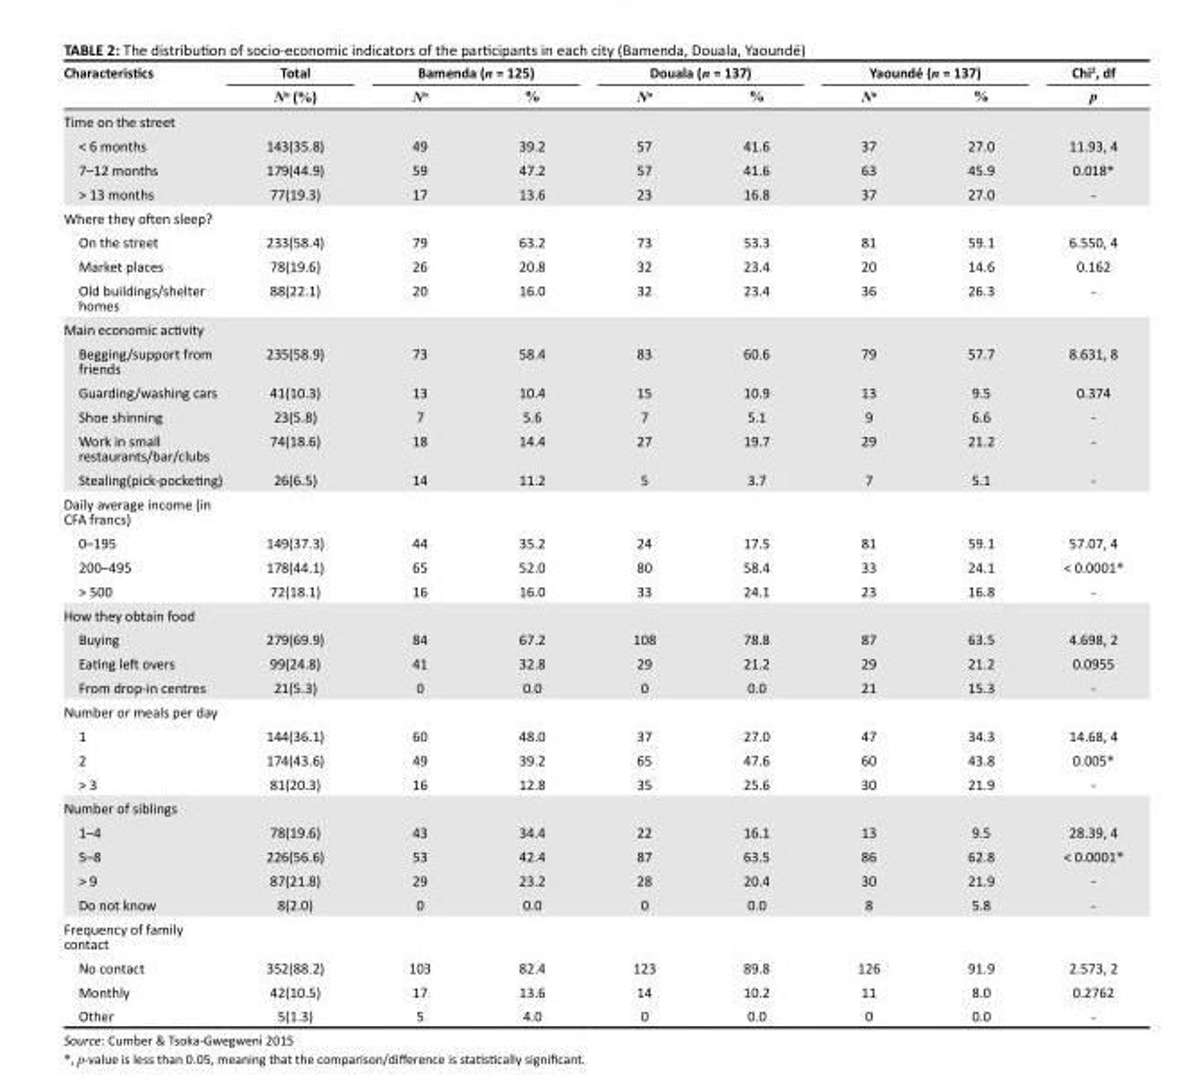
<table><thead><tr><td rowspan="2">Characteristics</td><td rowspan="2">Total N<sup>o</sup> (%)</td><td colspan="2">Bamenda (n = 125)</td><td colspan="2">Douala (n = 137)</td><td colspan="2">Yaoundé (n = 137)</td><td rowspan="2">Chi<sup>2</sup>, df p</td></tr><tr><td>N<sup>o</sup></td><td>%</td><td>N<sup>o</sup></td><td>%</td><td>N<sup>o</sup></td><td>%</td></tr></thead><tbody><tr><td colspan="9">Time on the street</td></tr><tr><td>&lt; 6 months</td><td>143(35.8)</td><td>49</td><td>39.2</td><td>57</td><td>41.6</td><td>37</td><td>27.0</td><td>11.93, 4</td></tr><tr><td>7–12 months</td><td>179(44.9)</td><td>59</td><td>47.2</td><td>57</td><td>41.6</td><td>63</td><td>45.9</td><td>0.018*</td></tr><tr><td>&gt; 13 months</td><td>77(19.3)</td><td>17</td><td>13.6</td><td>23</td><td>16.8</td><td>37</td><td>27.0</td><td>-</td></tr><tr><td colspan="9">Where they often sleep?</td></tr><tr><td>On the street</td><td>233(58.4)</td><td>79</td><td>63.2</td><td>73</td><td>53.3</td><td>81</td><td>59.1</td><td>6.550, 4</td></tr><tr><td>Market places</td><td>78(19.6)</td><td>26</td><td>20.8</td><td>32</td><td>23.4</td><td>20</td><td>14.6</td><td>0.162</td></tr><tr><td>Old buildings/shelter homes</td><td>88(22.1)</td><td>20</td><td>16.0</td><td>32</td><td>23.4</td><td>36</td><td>26.3</td><td>-</td></tr><tr><td colspan="9">Main economic activity</td></tr><tr><td>Begging/support from friends</td><td>235(58.9)</td><td>73</td><td>58.4</td><td>83</td><td>60.6</td><td>79</td><td>57.7</td><td>8.631, 8</td></tr><tr><td>Guarding/washing cars</td><td>41(10.3)</td><td>13</td><td>10.4</td><td>15</td><td>10.9</td><td>13</td><td>9.5</td><td>0.374</td></tr><tr><td>Shoe shinning</td><td>23(5.8)</td><td>7</td><td>5.6</td><td>7</td><td>5.1</td><td>9</td><td>6.6</td><td>-</td></tr><tr><td>Work in small restaurants/bar/clubs</td><td>74(18.6)</td><td>18</td><td>14.4</td><td>27</td><td>19.7</td><td>29</td><td>21.2</td><td>-</td></tr><tr><td>Stealing(pick-pocketing)</td><td>26(6.5)</td><td>14</td><td>11.2</td><td>5</td><td>3.7</td><td>7</td><td>5.1</td><td>-</td></tr><tr><td colspan="9">Daily average income (in CFA francs)</td></tr><tr><td>0–195</td><td>149(37.3)</td><td>44</td><td>35.2</td><td>24</td><td>17.5</td><td>81</td><td>59.1</td><td>57.07, 4</td></tr><tr><td>200–495</td><td>178(44.1)</td><td>65</td><td>52.0</td><td>80</td><td>58.4</td><td>33</td><td>24.1</td><td>&lt; 0.0001*</td></tr><tr><td>&gt; 500</td><td>72(18.1)</td><td>16</td><td>16.0</td><td>33</td><td>24.1</td><td>23</td><td>16.8</td><td>-</td></tr><tr><td colspan="9">How they obtain food</td></tr><tr><td>Buying</td><td>279(69.9)</td><td>84</td><td>67.2</td><td>108</td><td>78.8</td><td>87</td><td>63.5</td><td>4.698, 2</td></tr><tr><td>Eating left overs</td><td>99(24.8)</td><td>41</td><td>32.8</td><td>29</td><td>21.2</td><td>29</td><td>21.2</td><td>0.0955</td></tr><tr><td>From drop-in centres</td><td>21(5.3)</td><td>0</td><td>0.0</td><td>0</td><td>0.0</td><td>21</td><td>15.3</td><td>-</td></tr><tr><td colspan="9">Number or meals per day</td></tr><tr><td>1</td><td>144(36.1)</td><td>60</td><td>48.0</td><td>37</td><td>27.0</td><td>47</td><td>34.3</td><td>14.68, 4</td></tr><tr><td>2</td><td>174(43.6)</td><td>49</td><td>39.2</td><td>65</td><td>47.6</td><td>60</td><td>43.8</td><td>0.005*</td></tr><tr><td>&gt; 3</td><td>81(20.3)</td><td>16</td><td>12.8</td><td>35</td><td>25.6</td><td>30</td><td>21.9</td><td>-</td></tr><tr><td colspan="9">Number of siblings</td></tr><tr><td>1–4</td><td>78(19.6)</td><td>43</td><td>34.4</td><td>22</td><td>16.1</td><td>13</td><td>9.5</td><td>28.39, 4</td></tr><tr><td>5–8</td><td>226(56.6)</td><td>53</td><td>42.4</td><td>87</td><td>63.5</td><td>86</td><td>62.8</td><td>&lt; 0.0001*</td></tr><tr><td>&gt; 9</td><td>87(21.8)</td><td>29</td><td>23.2</td><td>28</td><td>20.4</td><td>30</td><td>21.9</td><td>-</td></tr><tr><td>Do not know</td><td>8(2.0)</td><td>0</td><td>0.0</td><td>0</td><td>0.0</td><td>8</td><td>5.8</td><td>-</td></tr><tr><td colspan="9">Frequency of family contact</td></tr><tr><td>No contact</td><td>352(88.2)</td><td>103</td><td>82.4</td><td>123</td><td>89.8</td><td>126</td><td>91.9</td><td>2.573, 2</td></tr><tr><td>Monthly</td><td>42(10.5)</td><td>17</td><td>13.6</td><td>14</td><td>10.2</td><td>11</td><td>8.0</td><td>0.2762</td></tr><tr><td>Other</td><td>5(1.3)</td><td>5</td><td>4.0</td><td>0</td><td>0.0</td><td>0</td><td>0.0</td><td>-</td></tr></tbody></table>